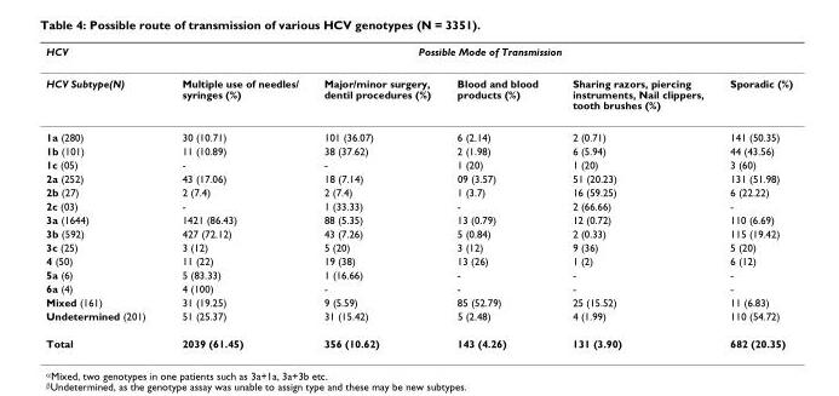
<table><thead><tr><td rowspan="2">HCV HCV Subtype(N)</td><td colspan="5">Possible Mode of Transmission</td></tr><tr><td>Multiple use of needles/ syringes (%)</td><td>Major/minor surgery, dentil procedures (%)</td><td>Blood and blood products (%)</td><td>Sharing razors, piercing instruments, Nail clippers, tooth brushes (%)</td><td>Sporadic (%)</td></tr></thead><tbody><tr><td>1a (280)</td><td>30 (10.71)</td><td>101 (36.07)</td><td>6 (2.14)</td><td>2 (0.71)</td><td>141 (50.35)</td></tr><tr><td>1b (101)</td><td>11 (10.89)</td><td>38 (37.62)</td><td>2 (1.98)</td><td>6 (5.94)</td><td>44 (43.56)</td></tr><tr><td>1c (05)</td><td>-</td><td>-</td><td>1 (20)</td><td>1 (20)</td><td>3 (60)</td></tr><tr><td>2a (252)</td><td>43 (17.06)</td><td>18 (7.14)</td><td>09 (3.57)</td><td>51 (20.23)</td><td>131 (51.98)</td></tr><tr><td>2b (27)</td><td>2 (7.4)</td><td>2 (7.4)</td><td>1 (3.7)</td><td>16 (59.25)</td><td>6 (22.22)</td></tr><tr><td>2c (03)</td><td>-</td><td>1 (33.33)</td><td>-</td><td>2 (66.66)</td><td>-</td></tr><tr><td>3a (1644)</td><td>1421 (86.43)</td><td>88 (5.35)</td><td>13 (0.79)</td><td>12 (0.72)</td><td>110 (6.69)</td></tr><tr><td>3b (592)</td><td>427 (72.12)</td><td>43 (7.26)</td><td>5 (0.84)</td><td>2 (0.33)</td><td>115 (19.42)</td></tr><tr><td>3c (25)</td><td>3 (12)</td><td>5 (20)</td><td>3 (12)</td><td>9 (36)</td><td>5 (20)</td></tr><tr><td>4 (50)</td><td>11 (22)</td><td>19 (38)</td><td>13 (26)</td><td>1 (2)</td><td>6 (12)</td></tr><tr><td>5a (6)</td><td>5 (83.33)</td><td>1 (16.66)</td><td>-</td><td>-</td><td>-</td></tr><tr><td>6a (4)</td><td>4 (100)</td><td>-</td><td>-</td><td>-</td><td>-</td></tr><tr><td>Mixed (161)</td><td>31 (19.25)</td><td>9 (5.59)</td><td>85 (52.79)</td><td>25 (15.52)</td><td>11 (6.83)</td></tr><tr><td>Undetermined (201)</td><td>51 (25.37)</td><td>31 (15.42)</td><td>5 (2.48)</td><td>4 (1.99)</td><td>110 (54.72)</td></tr><tr><td>Total</td><td>2039 (61.45)</td><td>356 (10.62)</td><td>143 (4.26)</td><td>131 (3.90)</td><td>682 (20.35)</td></tr></tbody></table>